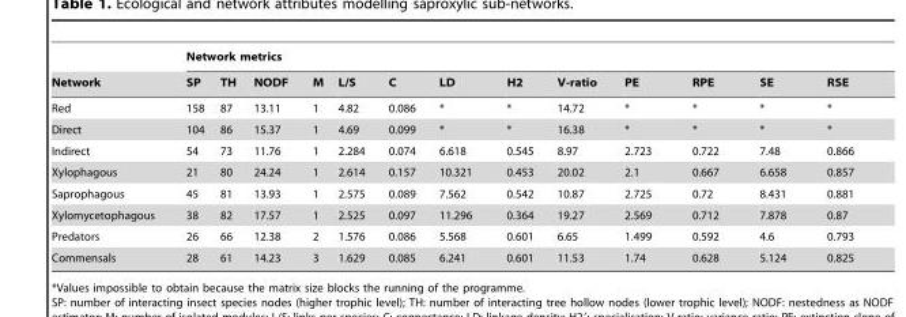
<table><thead><tr><td rowspan="2">Network</td><td colspan="13">Network metrics</td></tr><tr><td>SP</td><td>TH</td><td>NODF</td><td>M</td><td>L/S</td><td>C</td><td>LD</td><td>H2</td><td>V-ratio</td><td>PE</td><td>RPE</td><td>SE</td><td>RSE</td></tr></thead><tbody><tr><td>Red</td><td>158</td><td>87</td><td>13.11</td><td>1</td><td>4.82</td><td>0.086</td><td>*</td><td>*</td><td>14.72</td><td>*</td><td>*</td><td>*</td><td>*</td></tr><tr><td>Direct</td><td>104</td><td>86</td><td>15.37</td><td>1</td><td>4.69</td><td>0.099</td><td>*</td><td>*</td><td>16.38</td><td>*</td><td>*</td><td>*</td><td>*</td></tr><tr><td>Indirect</td><td>54</td><td>73</td><td>11.76</td><td>1</td><td>2.284</td><td>0.074</td><td>6.618</td><td>0.545</td><td>8.97</td><td>2.723</td><td>0.722</td><td>7.48</td><td>0.866</td></tr><tr><td>Xylophagous</td><td>21</td><td>80</td><td>24.24</td><td>1</td><td>2.614</td><td>0.157</td><td>10.321</td><td>0.453</td><td>20.02</td><td>2.1</td><td>0.667</td><td>6.658</td><td>0.857</td></tr><tr><td>Saprophagous</td><td>45</td><td>81</td><td>13.93</td><td>1</td><td>2.575</td><td>0.089</td><td>7.562</td><td>0.542</td><td>10.87</td><td>2.725</td><td>0.72</td><td>8.431</td><td>0.881</td></tr><tr><td>Xylomycetophagous</td><td>38</td><td>82</td><td>17.57</td><td>1</td><td>2.525</td><td>0.097</td><td>11.296</td><td>0.364</td><td>19.27</td><td>2.569</td><td>0.712</td><td>7.878</td><td>0.87</td></tr><tr><td>Predators</td><td>26</td><td>66</td><td>12.38</td><td>2</td><td>1.576</td><td>0.086</td><td>5.568</td><td>0.601</td><td>6.65</td><td>1.499</td><td>0.592</td><td>4.6</td><td>0.793</td></tr><tr><td>Commensals</td><td>28</td><td>61</td><td>14.23</td><td>3</td><td>1.629</td><td>0.085</td><td>6.241</td><td>0.601</td><td>11.53</td><td>1.74</td><td>0.628</td><td>5.124</td><td>0.825</td></tr></tbody></table>